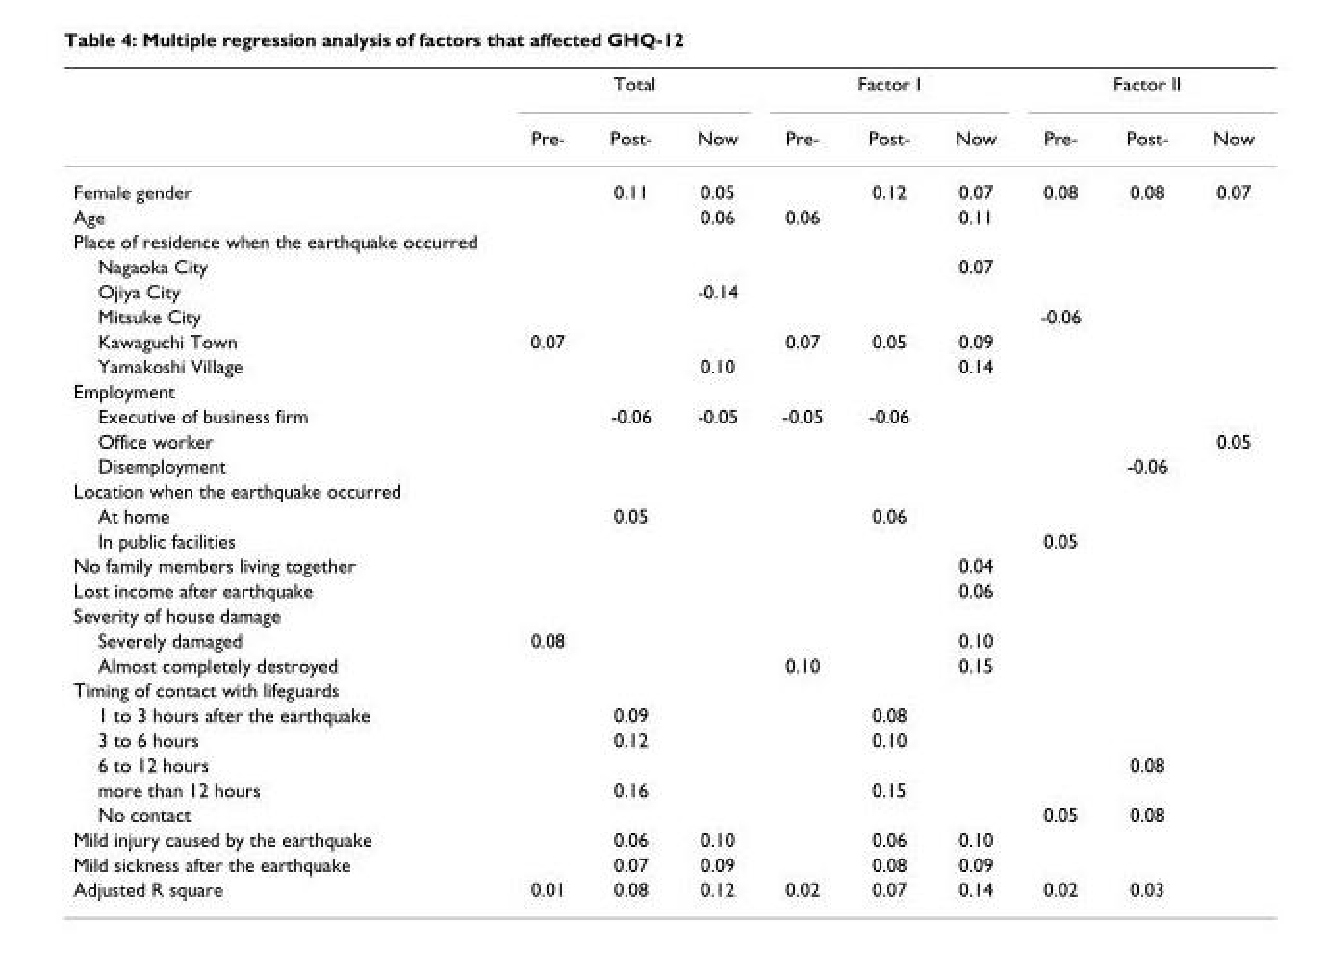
<table><thead><tr><td rowspan="2"></td><td colspan="3">Total</td><td colspan="3">Factor I</td><td colspan="3">Factor II</td></tr><tr><td>Pre-</td><td>Post-</td><td>Now</td><td>Pre-</td><td>Post-</td><td>Now</td><td>Pre-</td><td>Post-</td><td>Now</td></tr></thead><tbody><tr><td>Female gender</td><td></td><td>0.11</td><td>0.05</td><td></td><td>0.12</td><td>0.07</td><td>0.08</td><td>0.08</td><td>0.07</td></tr><tr><td>Age</td><td></td><td></td><td>0.06</td><td>0.06</td><td></td><td>0.11</td><td></td><td></td><td></td></tr><tr><td colspan="10">Place of residence when the earthquake occurred</td></tr><tr><td>Nagaoka City</td><td></td><td></td><td></td><td></td><td></td><td>0.07</td><td></td><td></td><td></td></tr><tr><td>Ojiya City</td><td></td><td></td><td>-0.14</td><td></td><td></td><td></td><td></td><td></td><td></td></tr><tr><td>Mitsuke City</td><td></td><td></td><td></td><td></td><td></td><td></td><td>-0.06</td><td></td><td></td></tr><tr><td>Kawaguchi Town</td><td>0.07</td><td></td><td></td><td>0.07</td><td>0.05</td><td>0.09</td><td></td><td></td><td></td></tr><tr><td>Yamakoshi Village</td><td></td><td></td><td>0.10</td><td></td><td></td><td>0.14</td><td></td><td></td><td></td></tr><tr><td colspan="10">Employment</td></tr><tr><td>Executive of business firm</td><td></td><td>-0.06</td><td>-0.05</td><td>-0.05</td><td>-0.06</td><td></td><td></td><td></td><td></td></tr><tr><td>Office worker</td><td></td><td></td><td></td><td></td><td></td><td></td><td></td><td></td><td>0.05</td></tr><tr><td>Disemployment</td><td></td><td></td><td></td><td></td><td></td><td></td><td></td><td>-0.06</td><td></td></tr><tr><td colspan="10">Location when the earthquake occurred</td></tr><tr><td>At home</td><td></td><td>0.05</td><td></td><td></td><td>0.06</td><td></td><td></td><td></td><td></td></tr><tr><td>In public facilities</td><td></td><td></td><td></td><td></td><td></td><td></td><td>0.05</td><td></td><td></td></tr><tr><td>No family members living together</td><td></td><td></td><td></td><td></td><td></td><td>0.04</td><td></td><td></td><td></td></tr><tr><td>Lost income after earthquake</td><td></td><td></td><td></td><td></td><td></td><td>0.06</td><td></td><td></td><td></td></tr><tr><td colspan="10">Severity of house damage</td></tr><tr><td>Severely damaged</td><td>0.08</td><td></td><td></td><td></td><td></td><td>0.10</td><td></td><td></td><td></td></tr><tr><td>Almost completely destroyed</td><td></td><td></td><td></td><td>0.10</td><td></td><td>0.15</td><td></td><td></td><td></td></tr><tr><td colspan="10">Timing of contact with lifeguards</td></tr><tr><td>1 to 3 hours after the earthquake</td><td></td><td>0.09</td><td></td><td></td><td>0.08</td><td></td><td></td><td></td><td></td></tr><tr><td>3 to 6 hours</td><td></td><td>0.12</td><td></td><td></td><td>0.10</td><td></td><td></td><td></td><td></td></tr><tr><td>6 to 12 hours</td><td></td><td></td><td></td><td></td><td></td><td></td><td></td><td>0.08</td><td></td></tr><tr><td>more than 12 hours</td><td></td><td>0.16</td><td></td><td></td><td>0.15</td><td></td><td></td><td></td><td></td></tr><tr><td>No contact</td><td></td><td></td><td></td><td></td><td></td><td></td><td>0.05</td><td>0.08</td><td></td></tr><tr><td>Mild injury caused by the earthquake</td><td></td><td>0.06</td><td>0.10</td><td></td><td>0.06</td><td>0.10</td><td></td><td></td><td></td></tr><tr><td>Mild sickness after the earthquake</td><td></td><td>0.07</td><td>0.09</td><td></td><td>0.08</td><td>0.09</td><td></td><td></td><td></td></tr><tr><td>Adjusted R square</td><td>0.01</td><td>0.08</td><td>0.12</td><td>0.02</td><td>0.07</td><td>0.14</td><td>0.02</td><td>0.03</td><td></td></tr></tbody></table>